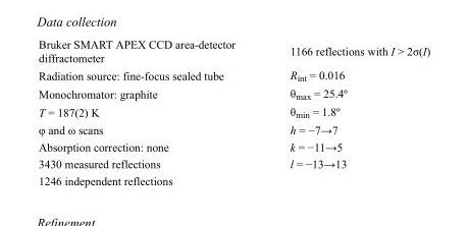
<table><tbody><tr><td>Bruker SMART APEX CCD area-detector diffractometer</td><td>1166 reflections with I &gt; 2σ(I)</td></tr><tr><td>Radiation source: fine-focus sealed tube</td><td>R<sub>int</sub> = 0.016</td></tr><tr><td>Monochromator: graphite</td><td>θ<sub>max</sub> = 25.4º</td></tr><tr><td>T = 187(2) K</td><td>θ<sub>min</sub> = 1.8º</td></tr><tr><td>φ and ω scans</td><td>h = −7→7</td></tr><tr><td>Absorption correction: none</td><td>k = −11→5</td></tr><tr><td>3430 measured reflections</td><td>l = −13→13</td></tr><tr><td>1246 independent reflections</td><td></td></tr></tbody></table>